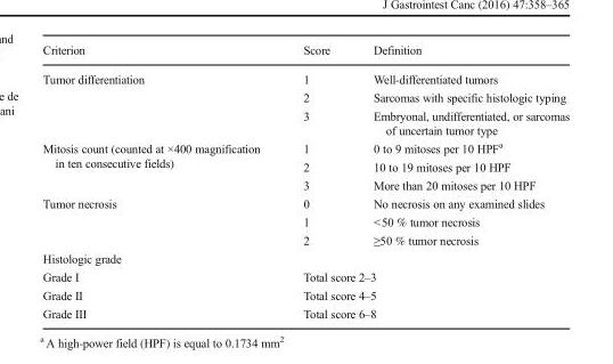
<table><thead><tr><td>Criterion</td><td>Score</td><td>Definition</td></tr></thead><tbody><tr><td rowspan="3">Tumor differentiation</td><td>1</td><td>Well-differentiated tumors</td></tr><tr><td>2</td><td>Sarcomas with specific histologic typing</td></tr><tr><td>3</td><td>Embryonal, undifferentiated, or sarcomas of uncertain tumor type</td></tr><tr><td rowspan="3">Mitosis count (counted at ×400 magnification in ten consecutive fields)</td><td>1</td><td>0 to 9 mitoses per 10 HPF<sup>a</sup></td></tr><tr><td>2</td><td>10 to 19 mitoses per 10 HPF</td></tr><tr><td>3</td><td>More than 20 mitoses per 10 HPF</td></tr><tr><td rowspan="3">Tumor necrosis</td><td>0</td><td>No necrosis on any examined slides</td></tr><tr><td>1</td><td>&lt;50 % tumor necrosis</td></tr><tr><td>2</td><td>≥50 % tumor necrosis</td></tr><tr><td colspan="3">Histologic grade</td></tr><tr><td>Grade I</td><td colspan="2">Total score 2–3</td></tr><tr><td>Grade II</td><td colspan="2">Total score 4–5</td></tr><tr><td>Grade III</td><td colspan="2">Total score 6–8</td></tr></tbody></table>